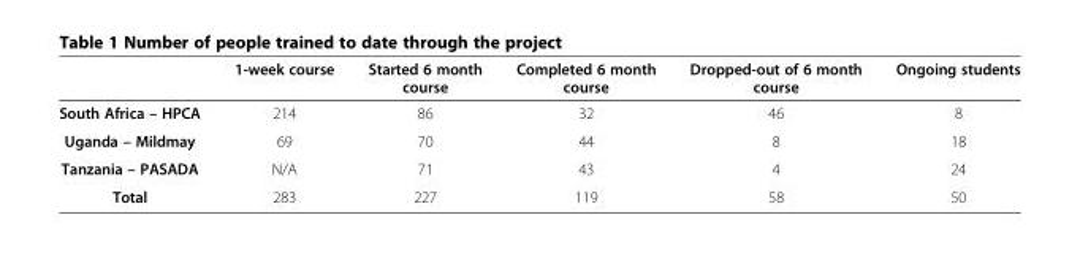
<table><thead><tr><td></td><td>1-week course</td><td>Started 6 month course</td><td>Completed 6 month course</td><td>Dropped-out of 6 month course</td><td>Ongoing students</td></tr></thead><tbody><tr><td>South Africa – HPCA</td><td>214</td><td>86</td><td>32</td><td>46</td><td>8</td></tr><tr><td>Uganda – Mildmay</td><td>69</td><td>70</td><td>44</td><td>8</td><td>18</td></tr><tr><td>Tanzania – PASADA</td><td>N/A</td><td>71</td><td>43</td><td>4</td><td>24</td></tr><tr><td>Total</td><td>283</td><td>227</td><td>119</td><td>58</td><td>50</td></tr></tbody></table>